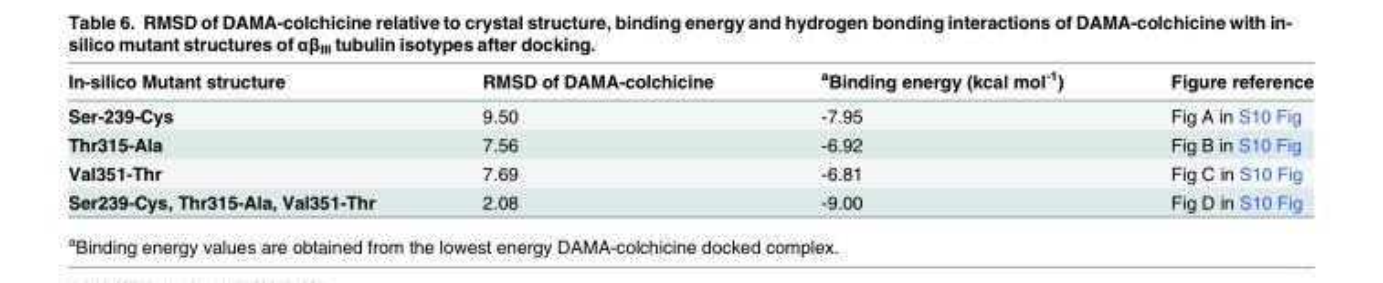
<table><thead><tr><td>In-silico Mutant structure</td><td>RMSD of DAMA-colchicine</td><td><sup>a</sup>Binding energy (kcal mol<sup>-1</sup>)</td><td>Figure reference</td></tr></thead><tbody><tr><td>Ser-239-Cys</td><td>9.50</td><td>-7.95</td><td>Fig A in S10 Fig</td></tr><tr><td>Thr315-Ala</td><td>7.56</td><td>-6.92</td><td>Fig B in S10 Fig</td></tr><tr><td>Val351-Thr</td><td>7.69</td><td>-6.81</td><td>Fig C in S10 Fig</td></tr><tr><td>Ser239-Cys, Thr315-Ala, Val351-Thr</td><td>2.08</td><td>-9.00</td><td>Fig D in S10 Fig</td></tr></tbody></table>